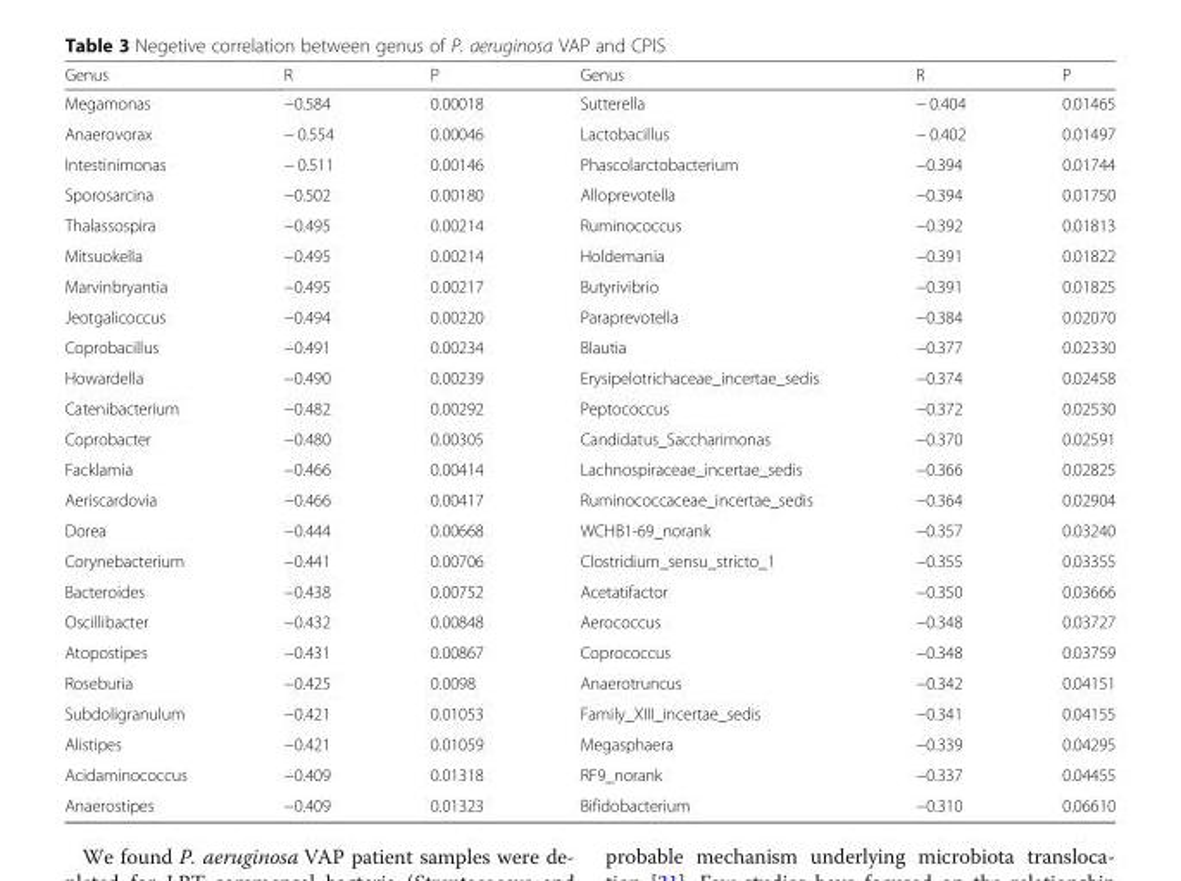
<table><thead><tr><td>Genus</td><td>R</td><td>P</td><td>Genus</td><td>R</td><td>P</td></tr></thead><tbody><tr><td>Megamonas</td><td>−0.584</td><td>0.00018</td><td>Sutterella</td><td>− 0.404</td><td>0.01465</td></tr><tr><td>Anaerovorax</td><td>− 0.554</td><td>0.00046</td><td>Lactobacillus</td><td>− 0.402</td><td>0.01497</td></tr><tr><td>Intestinimonas</td><td>− 0.511</td><td>0.00146</td><td>Phascolarctobacterium</td><td>−0.394</td><td>0.01744</td></tr><tr><td>Sporosarcina</td><td>−0.502</td><td>0.00180</td><td>Alloprevotella</td><td>−0.394</td><td>0.01750</td></tr><tr><td>Thalassospira</td><td>−0.495</td><td>0.00214</td><td>Ruminococcus</td><td>−0.392</td><td>0.01813</td></tr><tr><td>Mitsuokella</td><td>−0.495</td><td>0.00214</td><td>Holdemania</td><td>−0.391</td><td>0.01822</td></tr><tr><td>Marvinbryantia</td><td>−0.495</td><td>0.00217</td><td>Butyrivibrio</td><td>−0.391</td><td>0.01825</td></tr><tr><td>Jeotgalicoccus</td><td>−0.494</td><td>0.00220</td><td>Paraprevotella</td><td>−0.384</td><td>0.02070</td></tr><tr><td>Coprobacillus</td><td>−0.491</td><td>0.00234</td><td>Blautia</td><td>−0.377</td><td>0.02330</td></tr><tr><td>Howardella</td><td>−0.490</td><td>0.00239</td><td>Erysipelotrichaceae_incertae_sedis</td><td>−0.374</td><td>0.02458</td></tr><tr><td>Catenibacterium</td><td>−0.482</td><td>0.00292</td><td>Peptococcus</td><td>−0.372</td><td>0.02530</td></tr><tr><td>Coprobacter</td><td>−0.480</td><td>0.00305</td><td>Candidatus_Saccharimonas</td><td>−0.370</td><td>0.02591</td></tr><tr><td>Facklamia</td><td>−0.466</td><td>0.00414</td><td>Lachnospiraceae_incertae_sedis</td><td>−0.366</td><td>0.02825</td></tr><tr><td>Aeriscardovia</td><td>−0.466</td><td>0.00417</td><td>Ruminococcaceae_incertae_sedis</td><td>−0.364</td><td>0.02904</td></tr><tr><td>Dorea</td><td>−0.444</td><td>0.00668</td><td>WCHB1-69_norank</td><td>−0.357</td><td>0.03240</td></tr><tr><td>Corynebacterium</td><td>−0.441</td><td>0.00706</td><td>Clostridium_sensu_stricto_1</td><td>−0.355</td><td>0.03355</td></tr><tr><td>Bacteroides</td><td>−0.438</td><td>0.00752</td><td>Acetatifactor</td><td>−0.350</td><td>0.03666</td></tr><tr><td>Oscillibacter</td><td>−0.432</td><td>0.00848</td><td>Aerococcus</td><td>−0.348</td><td>0.03727</td></tr><tr><td>Atopostipes</td><td>−0.431</td><td>0.00867</td><td>Coprococcus</td><td>−0.348</td><td>0.03759</td></tr><tr><td>Roseburia</td><td>−0.425</td><td>0.0098</td><td>Anaerotruncus</td><td>−0.342</td><td>0.04151</td></tr><tr><td>Subdoligranulum</td><td>−0.421</td><td>0.01053</td><td>Family_XIII_incertae_sedis</td><td>−0.341</td><td>0.04155</td></tr><tr><td>Alistipes</td><td>−0.421</td><td>0.01059</td><td>Megasphaera</td><td>−0.339</td><td>0.04295</td></tr><tr><td>Acidaminococcus</td><td>−0.409</td><td>0.01318</td><td>RF9_norank</td><td>−0.337</td><td>0.04455</td></tr><tr><td>Anaerostipes</td><td>−0.409</td><td>0.01323</td><td>Bifidobacterium</td><td>−0.310</td><td>0.06610</td></tr></tbody></table>